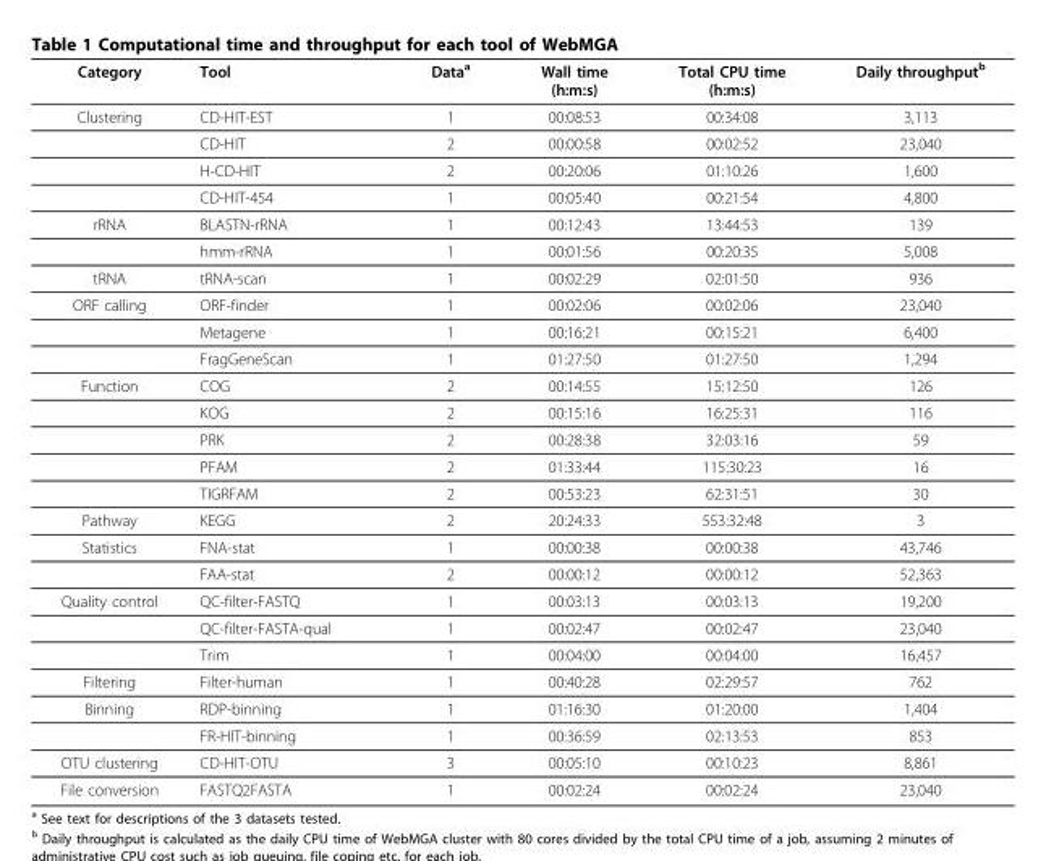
<table><thead><tr><td>Category</td><td>Tool</td><td>Data<sup>a</sup></td><td>Wall time (h:m:s)</td><td>Total CPU time (h:m:s)</td><td>Daily throughput<sup>b</sup></td></tr></thead><tbody><tr><td rowspan="4">Clustering</td><td>CD-HIT-EST</td><td>1</td><td>00:08:53</td><td>00:34:08</td><td>3,113</td></tr><tr><td>CD-HIT</td><td>2</td><td>00:00:58</td><td>00:02:52</td><td>23,040</td></tr><tr><td>H-CD-HIT</td><td>2</td><td>00:20:06</td><td>01:10:26</td><td>1,600</td></tr><tr><td>CD-HIT-454</td><td>1</td><td>00:05:40</td><td>00:21:54</td><td>4,800</td></tr><tr><td rowspan="2">rRNA</td><td>BLASTN-rRNA</td><td>1</td><td>00:12:43</td><td>13:44:53</td><td>139</td></tr><tr><td>hmm-rRNA</td><td>1</td><td>00:01:56</td><td>00:20:35</td><td>5,008</td></tr><tr><td>tRNA</td><td>tRNA-scan</td><td>1</td><td>00:02:29</td><td>02:01:50</td><td>936</td></tr><tr><td rowspan="3">ORF calling</td><td>ORF-finder</td><td>1</td><td>00:02:06</td><td>00:02:06</td><td>23,040</td></tr><tr><td>Metagene</td><td>1</td><td>00:16:21</td><td>00:15:21</td><td>6,400</td></tr><tr><td>FragGeneScan</td><td>1</td><td>01:27:50</td><td>01:27:50</td><td>1,294</td></tr><tr><td rowspan="5">Function</td><td>COG</td><td>2</td><td>00:14:55</td><td>15:12:50</td><td>126</td></tr><tr><td>KOG</td><td>2</td><td>00:15:16</td><td>16:25:31</td><td>116</td></tr><tr><td>PRK</td><td>2</td><td>00:28:38</td><td>32:03:16</td><td>59</td></tr><tr><td>PFAM</td><td>2</td><td>01:33:44</td><td>115:30:23</td><td>16</td></tr><tr><td>TIGRFAM</td><td>2</td><td>00:53:23</td><td>62:31:51</td><td>30</td></tr><tr><td>Pathway</td><td>KEGG</td><td>2</td><td>20:24:33</td><td>553:32:48</td><td>3</td></tr><tr><td rowspan="2">Statistics</td><td>FNA-stat</td><td>1</td><td>00:00:38</td><td>00:00:38</td><td>43,746</td></tr><tr><td>FAA-stat</td><td>2</td><td>00:00:12</td><td>00:00:12</td><td>52,363</td></tr><tr><td rowspan="3">Quality control</td><td>QC-filter-FASTQ</td><td>1</td><td>00:03:13</td><td>00:03:13</td><td>19,200</td></tr><tr><td>QC-filter-FASTA-qual</td><td>1</td><td>00:02:47</td><td>00:02:47</td><td>23,040</td></tr><tr><td>Trim</td><td>1</td><td>00:04:00</td><td>00:04:00</td><td>16,457</td></tr><tr><td>Filtering</td><td>Filter-human</td><td>1</td><td>00:40:28</td><td>02:29:57</td><td>762</td></tr><tr><td rowspan="2">Binning</td><td>RDP-binning</td><td>1</td><td>01:16:30</td><td>01:20:00</td><td>1,404</td></tr><tr><td>FR-HIT-binning</td><td>1</td><td>00:36:59</td><td>02:13:53</td><td>853</td></tr><tr><td>OTU clustering</td><td>CD-HIT-OTU</td><td>3</td><td>00:05:10</td><td>00:10:23</td><td>8,861</td></tr><tr><td>File conversion</td><td>FASTQ2FASTA</td><td>1</td><td>00:02:24</td><td>00:02:24</td><td>23,040</td></tr></tbody></table>